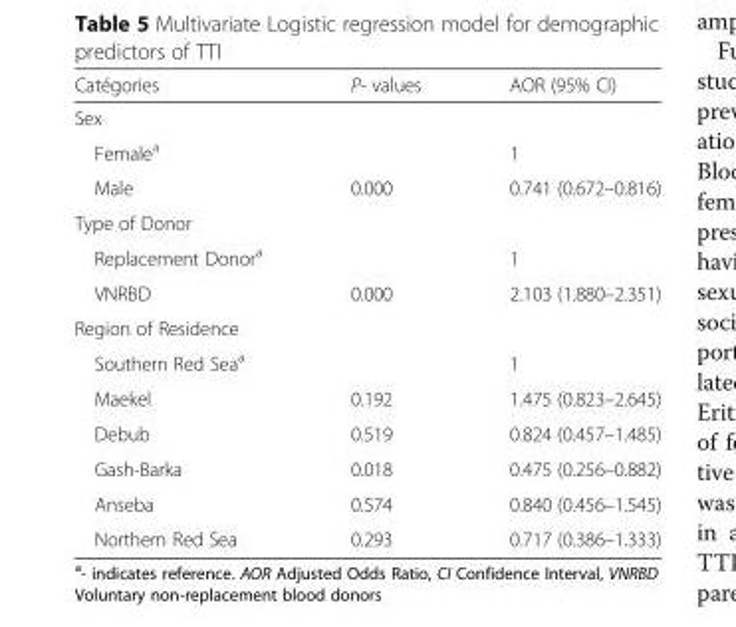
<table><thead><tr><td>Catégories</td><td>P- values</td><td>AOR (95% CI)</td></tr></thead><tbody><tr><td colspan="3">Sex</td></tr><tr><td>Female<sup>a</sup></td><td></td><td>1</td></tr><tr><td>Male</td><td>0.000</td><td>0.741 (0.672–0.816)</td></tr><tr><td colspan="3">Type of Donor</td></tr><tr><td>Replacement Donor<sup>a</sup></td><td></td><td>1</td></tr><tr><td>VNRBD</td><td>0.000</td><td>2.103 (1.880–2.351)</td></tr><tr><td colspan="3">Region of Residence</td></tr><tr><td>Southern Red Sea<sup>a</sup></td><td></td><td>1</td></tr><tr><td>Maekel</td><td>0.192</td><td>1.475 (0.823–2.645)</td></tr><tr><td>Debub</td><td>0.519</td><td>0.824 (0.457–1.485)</td></tr><tr><td>Gash-Barka</td><td>0.018</td><td>0.475 (0.256–0.882)</td></tr><tr><td>Anseba</td><td>0.574</td><td>0.840 (0.456–1.545)</td></tr><tr><td>Northern Red Sea</td><td>0.293</td><td>0.717 (0.386–1.333)</td></tr></tbody></table>